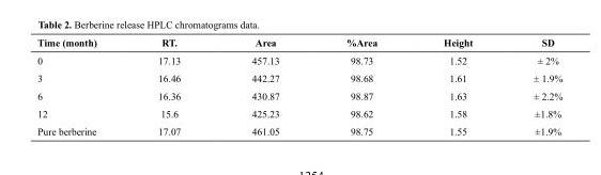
<table><thead><tr><td>Time (month)</td><td>RT.</td><td>Area</td><td>%Area</td><td>Height</td><td>SD</td></tr></thead><tbody><tr><td>0</td><td>17.13</td><td>457.13</td><td>98.73</td><td>1.52</td><td>± 2%</td></tr><tr><td>3</td><td>16.46</td><td>442.27</td><td>98.68</td><td>1.61</td><td>± 1.9%</td></tr><tr><td>6</td><td>16.36</td><td>430.87</td><td>98.87</td><td>1.63</td><td>± 2.2%</td></tr><tr><td>12</td><td>15.6</td><td>425.23</td><td>98.62</td><td>1.58</td><td>±1.8%</td></tr><tr><td>Pure berberine</td><td>17.07</td><td>461.05</td><td>98.75</td><td>1.55</td><td>±1.9%</td></tr></tbody></table>